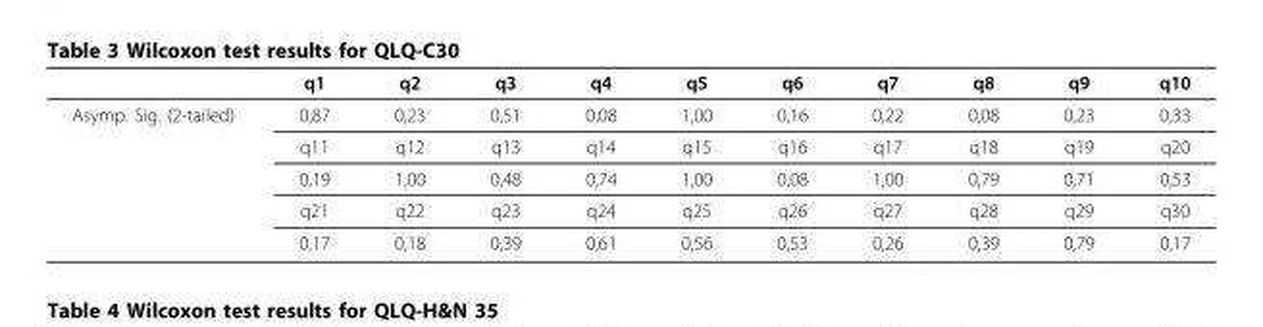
<table><thead><tr><td></td><td>q1</td><td>q2</td><td>q3</td><td>q4</td><td>q5</td><td>q6</td><td>q7</td><td>q8</td><td>q9</td><td>q10</td></tr></thead><tbody><tr><td rowspan="5">Asymp. Sig. (2-tailed)</td><td>0,87</td><td>0,23</td><td>0,51</td><td>0,08</td><td>1,00</td><td>0,16</td><td>0,22</td><td>0,08</td><td>0,23</td><td>0,33</td></tr><tr><td>q11</td><td>q12</td><td>q13</td><td>q14</td><td>q15</td><td>q16</td><td>q17</td><td>q18</td><td>q19</td><td>q20</td></tr><tr><td>0,19</td><td>1,00</td><td>0,48</td><td>0,74</td><td>1,00</td><td>0,08</td><td>1,00</td><td>0,79</td><td>0,71</td><td>0,53</td></tr><tr><td>q21</td><td>q22</td><td>q23</td><td>q24</td><td>q25</td><td>q26</td><td>q27</td><td>q28</td><td>q29</td><td>q30</td></tr><tr><td>0,17</td><td>0,18</td><td>0,39</td><td>0,61</td><td>0,56</td><td>0,53</td><td>0,26</td><td>0,39</td><td>0,79</td><td>0,17</td></tr></tbody></table>